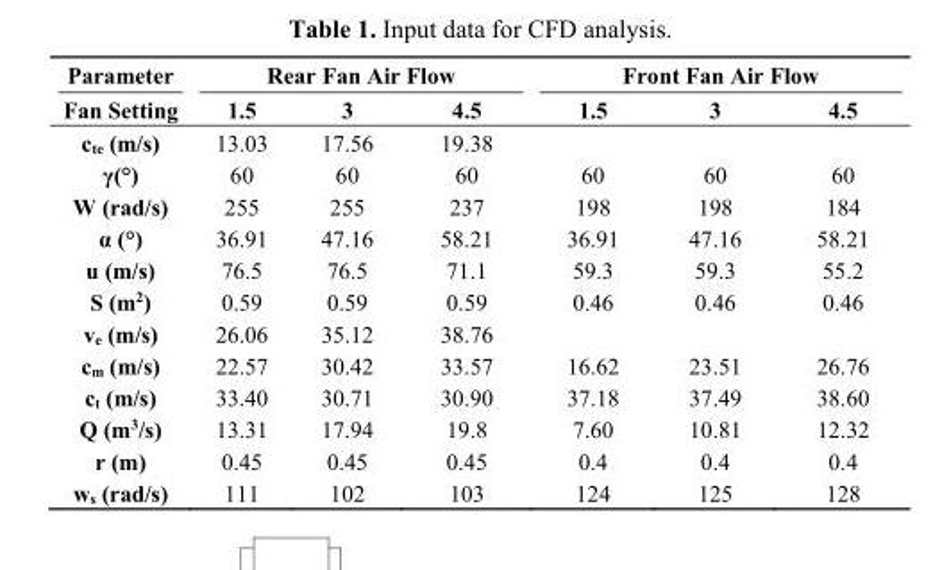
<table><thead><tr><td rowspan="2">Parameter Fan Setting</td><td colspan="3">Rear Fan Air Flow</td><td colspan="3">Front Fan Air Flow</td></tr><tr><td>1.5</td><td>3</td><td>4.5</td><td>1.5</td><td>3</td><td>4.5</td></tr></thead><tbody><tr><td>c<sub>te</sub> (m/s)</td><td>13.03</td><td>17.56</td><td>19.38</td><td></td><td></td><td></td></tr><tr><td>γ(°)</td><td>60</td><td>60</td><td>60</td><td>60</td><td>60</td><td>60</td></tr><tr><td>W (rad/s)</td><td>255</td><td>255</td><td>237</td><td>198</td><td>198</td><td>184</td></tr><tr><td>α (°)</td><td>36.91</td><td>47.16</td><td>58.21</td><td>36.91</td><td>47.16</td><td>58.21</td></tr><tr><td>u (m/s)</td><td>76.5</td><td>76.5</td><td>71.1</td><td>59.3</td><td>59.3</td><td>55.2</td></tr><tr><td>S (m<sup>2</sup>)</td><td>0.59</td><td>0.59</td><td>0.59</td><td>0.46</td><td>0.46</td><td>0.46</td></tr><tr><td>v<sub>e</sub> (m/s)</td><td>26.06</td><td>35.12</td><td>38.76</td><td></td><td></td><td></td></tr><tr><td>c<sub>m</sub> (m/s)</td><td>22.57</td><td>30.42</td><td>33.57</td><td>16.62</td><td>23.51</td><td>26.76</td></tr><tr><td>c<sub>t</sub> (m/s)</td><td>33.40</td><td>30.71</td><td>30.90</td><td>37.18</td><td>37.49</td><td>38.60</td></tr><tr><td>Q (m<sup>3</sup>/s)</td><td>13.31</td><td>17.94</td><td>19.8</td><td>7.60</td><td>10.81</td><td>12.32</td></tr><tr><td>r (m)</td><td>0.45</td><td>0.45</td><td>0.45</td><td>0.4</td><td>0.4</td><td>0.4</td></tr><tr><td>w<sub>s</sub> (rad/s)</td><td>111</td><td>102</td><td>103</td><td>124</td><td>125</td><td>128</td></tr></tbody></table>